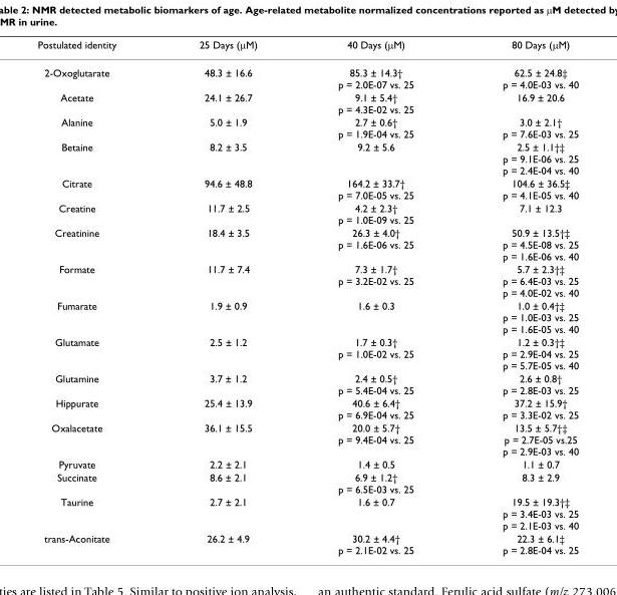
<table><thead><tr><td>Postulated identity</td><td>25 Days (μM)</td><td>40 Days (μM)</td><td>80 Days (μM)</td></tr></thead><tbody><tr><td>2-Oxoglutarate</td><td>48.3 ± 16.6</td><td>85.3 ± 14.3† p = 2.0E-07 vs. 25</td><td>62.5 ± 24.8‡ p = 4.0E-03 vs. 40</td></tr><tr><td>Acetate</td><td>24.1 ± 26.7</td><td>9.1 ± 5.4† p = 4.3E-02 vs. 25</td><td>16.9 ± 20.6</td></tr><tr><td>Alanine</td><td>5.0 ± 1.9</td><td>2.7 ± 0.6† p = 1.9E-04 vs. 25</td><td>3.0 ± 2.1† p = 7.6E-03 vs. 25</td></tr><tr><td>Betaine</td><td>8.2 ± 3.5</td><td>9.2 ± 5.6</td><td>2.5 ± 1.1†‡ p = 9.1E-06 vs. 25 p = 2.4E-04 vs. 40</td></tr><tr><td>Citrate</td><td>94.6 ± 48.8</td><td>164.2 ± 33.7† p = 7.0E-05 vs. 25</td><td>104.6 ± 36.5‡ p = 4.1E-05 vs. 40</td></tr><tr><td>Creatine</td><td>11.7 ± 2.5</td><td>4.2 ± 2.3† p = 1.0E-09 vs. 25</td><td>7.1 ± 12.3</td></tr><tr><td>Creatinine</td><td>18.4 ± 3.5</td><td>26.3 ± 4.0† p = 1.6E-06 vs. 25</td><td>50.9 ± 13.5†‡ p = 4.5E-08 vs. 25 p = 1.6E-06 vs. 40</td></tr><tr><td>Formate</td><td>11.7 ± 7.4</td><td>7.3 ± 1.7† p = 3.2E-02 vs. 25</td><td>5.7 ± 2.3†‡ p = 6.4E-03 vs. 25 p = 4.0E-02 vs. 40</td></tr><tr><td>Fumarate</td><td>1.9 ± 0.9</td><td>1.6 ± 0.3</td><td>1.0 ± 0.4†‡ p = 1.0E-03 vs. 25 p = 1.6E-05 vs. 40</td></tr><tr><td>Glutamate</td><td>2.5 ± 1.2</td><td>1.7 ± 0.3† p = 1.0E-02 vs. 25</td><td>1.2 ± 0.3†‡ p = 2.9E-04 vs. 25 p = 5.7E-05 vs. 40</td></tr><tr><td>Glutamine</td><td>3.7 ± 1.2</td><td>2.4 ± 0.5† p = 5.4E-04 vs. 25</td><td>2.6 ± 0.8† p = 2.8E-03 vs. 25</td></tr><tr><td>Hippurate</td><td>25.4 ± 13.9</td><td>40.6 ± 6.4† p = 6.9E-04 vs. 25</td><td>37.2 ± 15.9† p = 3.3E-02 vs. 25</td></tr><tr><td>Oxalacetate</td><td>36.1 ± 15.5</td><td>20.0 ± 5.7† p = 9.4E-04 vs. 25</td><td>13.5 ± 5.7†‡ p = 2.7E-05 vs.25 p = 2.9E-03 vs. 40</td></tr><tr><td>Pyruvate</td><td>2.2 ± 2.1</td><td>1.4 ± 0.5</td><td>1.1 ± 0.7</td></tr><tr><td>Succinate</td><td>8.6 ± 2.1</td><td>6.9 ± 1.2† p = 6.5E-03 vs. 25</td><td>8.3 ± 2.9</td></tr><tr><td>Taurine</td><td>2.7 ± 2.1</td><td>1.6 ± 0.7</td><td>19.5 ± 19.3†‡ p = 3.4E-03 vs. 25 p = 2.1E-03 vs. 40</td></tr><tr><td>trans-Aconitate</td><td>26.2 ± 4.9</td><td>30.2 ± 4.4† p = 2.1E-02 vs. 25</td><td>22.3 ± 6.1‡ p = 2.8E-04 vs. 25</td></tr></tbody></table>